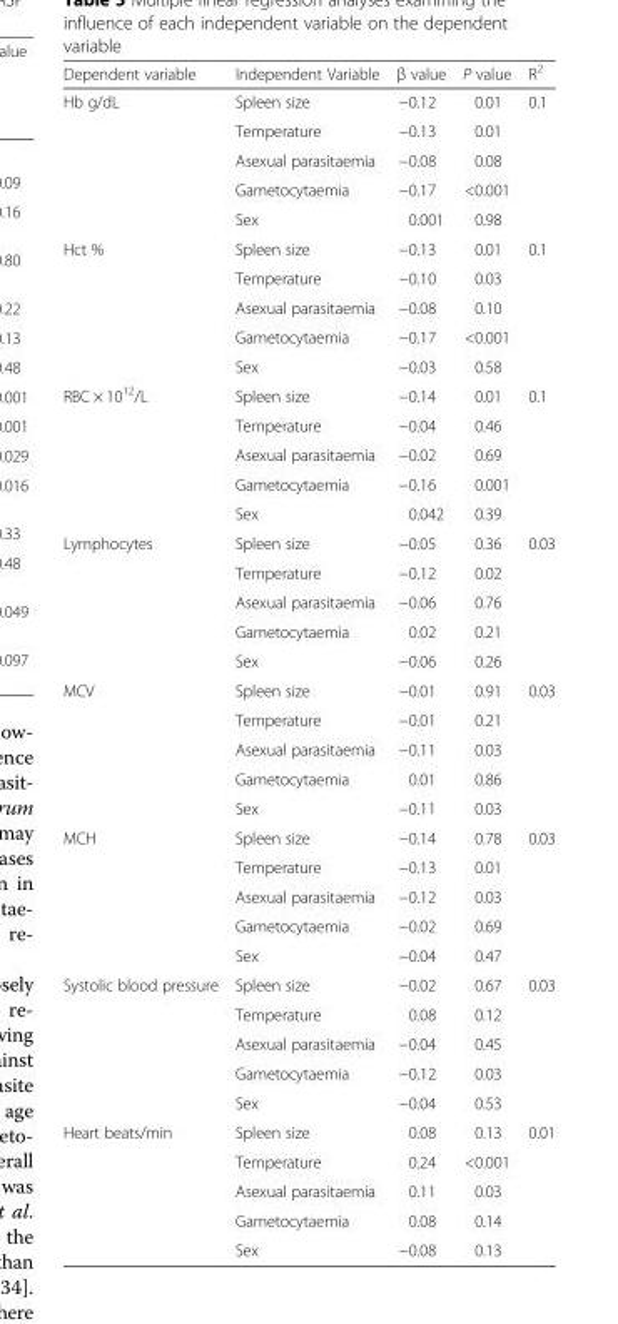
<table><thead><tr><td>Dependent variable</td><td>Independent Variable</td><td>β value</td><td>P value</td><td>R<sup>2</sup></td></tr></thead><tbody><tr><td rowspan="5">Hb g/dL</td><td>Spleen size</td><td>−0.12</td><td>0.01</td><td rowspan="5">0.1</td></tr><tr><td>Temperature</td><td>−0.13</td><td>0.01</td></tr><tr><td>Asexual parasitaemia</td><td>−0.08</td><td>0.08</td></tr><tr><td>Gametocytaemia</td><td>−0.17</td><td>&lt;0.001</td></tr><tr><td>Sex</td><td>0.001</td><td>0.98</td></tr><tr><td rowspan="5">Hct %</td><td>Spleen size</td><td>−0.13</td><td>0.01</td><td rowspan="5">0.1</td></tr><tr><td>Temperature</td><td>−0.10</td><td>0.03</td></tr><tr><td>Asexual parasitaemia</td><td>−0.08</td><td>0.10</td></tr><tr><td>Gametocytaemia</td><td>−0.17</td><td>&lt;0.001</td></tr><tr><td>Sex</td><td>−0.03</td><td>0.58</td></tr><tr><td rowspan="5">RBC × 10<sup>12</sup>/L</td><td>Spleen size</td><td>−0.14</td><td>0.01</td><td rowspan="5">0.1</td></tr><tr><td>Temperature</td><td>−0.04</td><td>0.46</td></tr><tr><td>Asexual parasitaemia</td><td>−0.02</td><td>0.69</td></tr><tr><td>Gametocytaemia</td><td>−0.16</td><td>0.001</td></tr><tr><td>Sex</td><td>0.042</td><td>0.39</td></tr><tr><td rowspan="5">Lymphocytes</td><td>Spleen size</td><td>−0.05</td><td>0.36</td><td rowspan="5">0.03</td></tr><tr><td>Temperature</td><td>−0.12</td><td>0.02</td></tr><tr><td>Asexual parasitaemia</td><td>−0.06</td><td>0.76</td></tr><tr><td>Gametocytaemia</td><td>0.02</td><td>0.21</td></tr><tr><td>Sex</td><td>−0.06</td><td>0.26</td></tr><tr><td rowspan="5">MCV</td><td>Spleen size</td><td>−0.01</td><td>0.91</td><td rowspan="5">0.03</td></tr><tr><td>Temperature</td><td>−0.01</td><td>0.21</td></tr><tr><td>Asexual parasitaemia</td><td>−0.11</td><td>0.03</td></tr><tr><td>Gametocytaemia</td><td>0.01</td><td>0.86</td></tr><tr><td>Sex</td><td>−0.11</td><td>0.03</td></tr><tr><td rowspan="5">MCH</td><td>Spleen size</td><td>−0.14</td><td>0.78</td><td rowspan="5">0.03</td></tr><tr><td>Temperature</td><td>−0.13</td><td>0.01</td></tr><tr><td>Asexual parasitaemia</td><td>−0.12</td><td>0.03</td></tr><tr><td>Gametocytaemia</td><td>−0.02</td><td>0.69</td></tr><tr><td>Sex</td><td>−0.04</td><td>0.47</td></tr><tr><td rowspan="5">Systolic blood pressure</td><td>Spleen size</td><td>−0.02</td><td>0.67</td><td rowspan="5">0.03</td></tr><tr><td>Temperature</td><td>0.08</td><td>0.12</td></tr><tr><td>Asexual parasitaemia</td><td>−0.04</td><td>0.45</td></tr><tr><td>Gametocytaemia</td><td>−0.12</td><td>0.03</td></tr><tr><td>Sex</td><td>−0.04</td><td>0.53</td></tr><tr><td rowspan="5">Heart beats/min</td><td>Spleen size</td><td>0.08</td><td>0.13</td><td rowspan="5">0.01</td></tr><tr><td>Temperature</td><td>0.24</td><td>&lt;0.001</td></tr><tr><td>Asexual parasitaemia</td><td>0.11</td><td>0.03</td></tr><tr><td>Gametocytaemia</td><td>0.08</td><td>0.14</td></tr><tr><td>Sex</td><td>−0.08</td><td>0.13</td></tr></tbody></table>